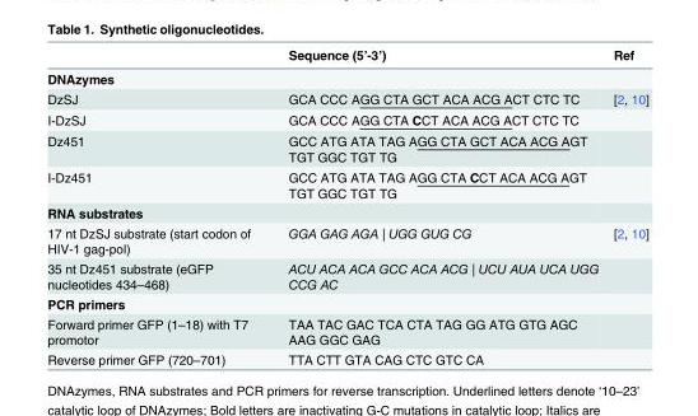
<table><thead><tr><td></td><td>Sequence (5’-3’)</td><td>Ref</td></tr></thead><tbody><tr><td colspan="3">DNAzymes</td></tr><tr><td>DzSJ</td><td>GCA CCC AGG CTA GCT ACA ACG ACT CTC TC</td><td>[2, 10]</td></tr><tr><td>I-DzSJ</td><td>GCA CCC AGG CTA CCT ACA ACG ACT CTC TC</td><td></td></tr><tr><td>Dz451</td><td>GCC ATG ATA TAG AGG CTA GCT ACA ACG AGT TGT GGC TGT TG</td><td></td></tr><tr><td>I-Dz451</td><td>GCC ATG ATA TAG AGG CTA CCT ACA ACG AGT TGT GGC TGT TG</td><td></td></tr><tr><td colspan="3">RNA substrates</td></tr><tr><td>17 nt DzSJ substrate (start codon of HIV-1 gag-pol)</td><td>GGA GAG AGA | UGG GUG CG</td><td>[2, 10]</td></tr><tr><td>35 nt Dz451 substrate (eGFP nucleotides 434–468)</td><td>ACU ACA ACA GCC ACA ACG | UCU AUA UCA UGG CCG AC</td><td></td></tr><tr><td colspan="3">PCR primers</td></tr><tr><td>Forward primer GFP (1–18) with T7 promotor</td><td>TAA TAC GAC TCA CTA TAG GG ATG GTG AGC AAG GGC GAG</td><td></td></tr><tr><td>Reverse primer GFP (720–701)</td><td>TTA CTT GTA CAG CTC GTC CA</td><td></td></tr></tbody></table>